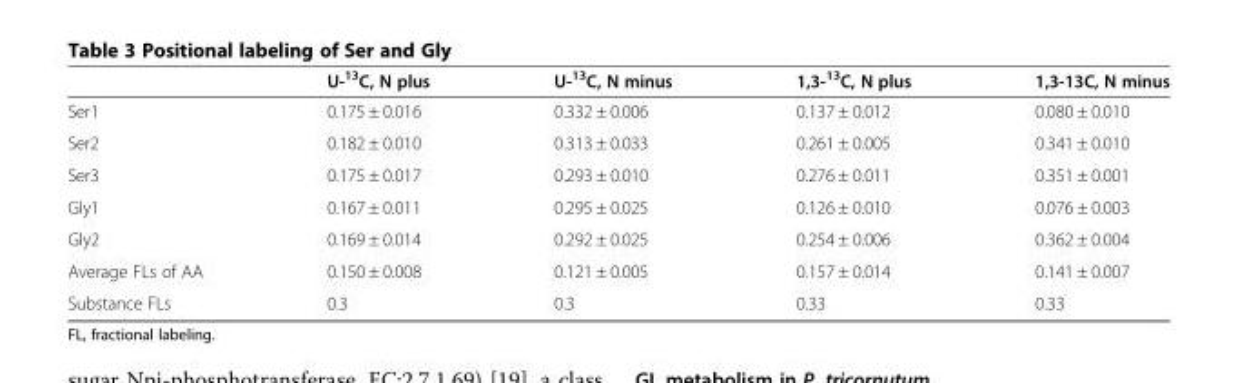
<table><thead><tr><td></td><td>U-<sup>13</sup>C, N plus</td><td>U-<sup>13</sup>C, N minus</td><td>1,3-<sup>13</sup>C, N plus</td><td>1,3-13C, N minus</td></tr></thead><tbody><tr><td>Ser1</td><td>0.175 ± 0.016</td><td>0.332 ± 0.006</td><td>0.137 ± 0.012</td><td>0.080 ± 0.010</td></tr><tr><td>Ser2</td><td>0.182 ± 0.010</td><td>0.313 ± 0.033</td><td>0.261 ± 0.005</td><td>0.341 ± 0.010</td></tr><tr><td>Ser3</td><td>0.175 ± 0.017</td><td>0.293 ± 0.010</td><td>0.276 ± 0.011</td><td>0.351 ± 0.001</td></tr><tr><td>Gly1</td><td>0.167 ± 0.011</td><td>0.295 ± 0.025</td><td>0.126 ± 0.010</td><td>0.076 ± 0.003</td></tr><tr><td>Gly2</td><td>0.169 ± 0.014</td><td>0.292 ± 0.025</td><td>0.254 ± 0.006</td><td>0.362 ± 0.004</td></tr><tr><td>Average FLs of AA</td><td>0.150 ± 0.008</td><td>0.121 ± 0.005</td><td>0.157 ± 0.014</td><td>0.141 ± 0.007</td></tr><tr><td>Substance FLs</td><td>0.3</td><td>0.3</td><td>0.33</td><td>0.33</td></tr></tbody></table>